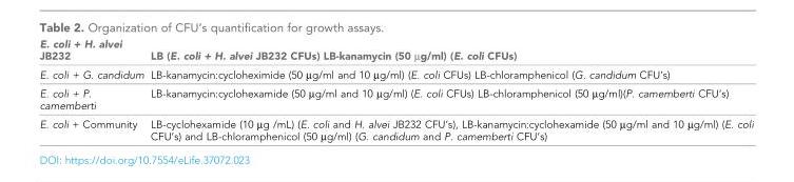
<table><thead><tr><td>E. coli + H. alvei JB232</td><td>LB (E. coli + H. alvei JB232 CFUs) LB-kanamycin (50 µg/ml) (E. coli CFUs)</td></tr></thead><tbody><tr><td>E. coli + G. candidum</td><td>LB-kanamycin:cycloheximide (50 µg/ml and 10 µg/ml) (E. coli CFUs) LB-chloramphenicol (G. candidum CFU’s)</td></tr><tr><td>E. coli + P. camemberti</td><td>LB-kanamycin:cyclohexamide (50 µg/ml and 10 µg/ml) (E. coli CFUs) LB-chloramphenicol (50 µg/ml)(P. camemberti CFU’s)</td></tr><tr><td>E. coli + Community</td><td>LB-cyclohexamide (10 µg /mL) (E. coli and H. alvei JB232 CFU’s), LB-kanamycin:cyclohexamide (50 µg/ml and 10 µg/ml) (E. coli CFU’s) and LB-chloramphenicol (50 µg/ml) (G. candidum and P. camemberti CFU’s)</td></tr></tbody></table>